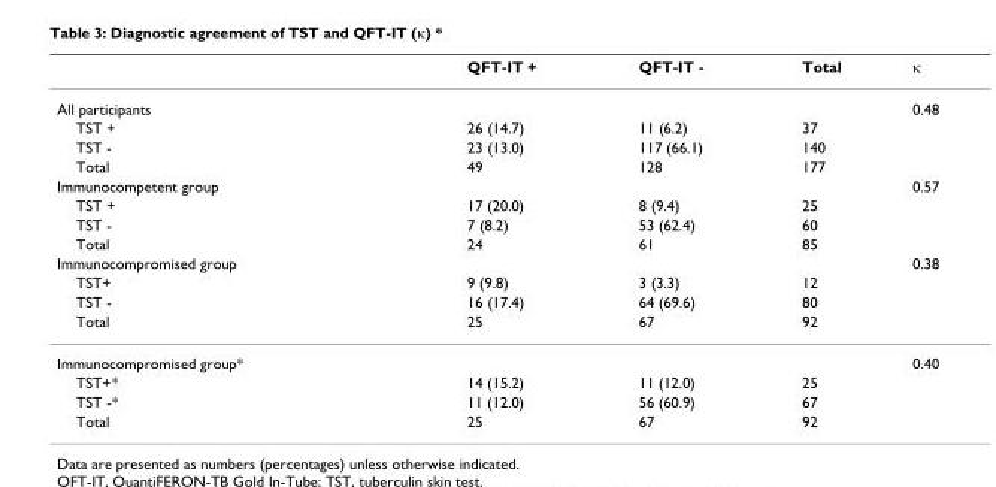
<table><thead><tr><td></td><td>QFT-IT +</td><td>QFT-IT -</td><td>Total</td><td>κ</td></tr></thead><tbody><tr><td>All participants</td><td></td><td></td><td></td><td>0.48</td></tr><tr><td>TST +</td><td>26 (14.7)</td><td>11 (6.2)</td><td>37</td><td></td></tr><tr><td>TST -</td><td>23 (13.0)</td><td>117 (66.1)</td><td>140</td><td></td></tr><tr><td>Total</td><td>49</td><td>128</td><td>177</td><td></td></tr><tr><td>Immunocompetent group</td><td></td><td></td><td></td><td>0.57</td></tr><tr><td>TST +</td><td>17 (20.0)</td><td>8 (9.4)</td><td>25</td><td></td></tr><tr><td>TST -</td><td>7 (8.2)</td><td>53 (62.4)</td><td>60</td><td></td></tr><tr><td>Total</td><td>24</td><td>61</td><td>85</td><td></td></tr><tr><td>Immunocompromised group</td><td></td><td></td><td></td><td>0.38</td></tr><tr><td>TST+</td><td>9 (9.8)</td><td>3 (3.3)</td><td>12</td><td></td></tr><tr><td>TST -</td><td>16 (17.4)</td><td>64 (69.6)</td><td>80</td><td></td></tr><tr><td>Total</td><td>25</td><td>67</td><td>92</td><td></td></tr><tr><td>Immunocompromised group*</td><td></td><td></td><td></td><td>0.40</td></tr><tr><td>TST+*</td><td>14 (15.2)</td><td>11 (12.0)</td><td>25</td><td></td></tr><tr><td>TST -*</td><td>11 (12.0)</td><td>56 (60.9)</td><td>67</td><td></td></tr><tr><td>Total</td><td>25</td><td>67</td><td>92</td><td></td></tr></tbody></table>